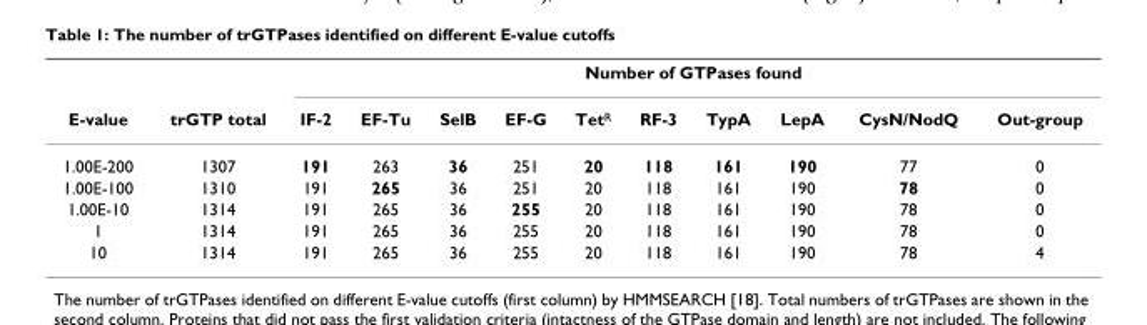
<table><thead><tr><td rowspan="2">E-value</td><td rowspan="2">trGTP total</td><td colspan="10">Number of GTPases found</td></tr><tr><td>IF-2</td><td>EF-Tu</td><td>SelB</td><td>EF-G</td><td>TetR</td><td>RF-3</td><td>TypA</td><td>LepA</td><td>CysN/NodQ</td><td>Out-group</td></tr></thead><tbody><tr><td>1.00E-200</td><td>1307</td><td>191</td><td>263</td><td>36</td><td>251</td><td>20</td><td>118</td><td>161</td><td>190</td><td>77</td><td>0</td></tr><tr><td>1.00E-100</td><td>1310</td><td>191</td><td>265</td><td>36</td><td>251</td><td>20</td><td>118</td><td>161</td><td>190</td><td>78</td><td>0</td></tr><tr><td>1.00E-10</td><td>1314</td><td>191</td><td>265</td><td>36</td><td>255</td><td>20</td><td>118</td><td>161</td><td>190</td><td>78</td><td>0</td></tr><tr><td>1</td><td>1314</td><td>191</td><td>265</td><td>36</td><td>255</td><td>20</td><td>118</td><td>161</td><td>190</td><td>78</td><td>0</td></tr><tr><td>10</td><td>1314</td><td>191</td><td>265</td><td>36</td><td>255</td><td>20</td><td>118</td><td>161</td><td>190</td><td>78</td><td>4</td></tr></tbody></table>